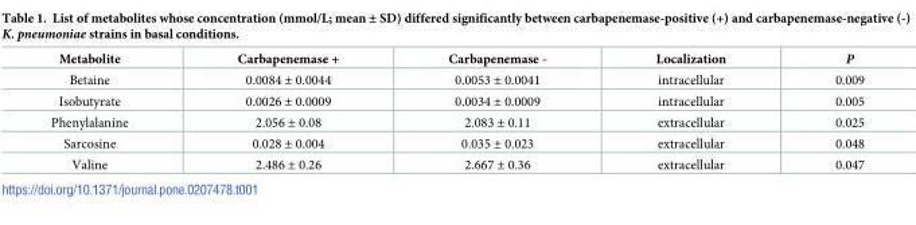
<table><thead><tr><td>Metabolite</td><td>Carbapenemase +</td><td>Carbapenemase -</td><td>Localization</td><td>P</td></tr></thead><tbody><tr><td>Betaine</td><td>0.0084 ± 0.0044</td><td>0.0053 ± 0.0041</td><td>intracellular</td><td>0.009</td></tr><tr><td>Isobutyrate</td><td>0.0026 ± 0.0009</td><td>0.0034 ± 0.0009</td><td>intracellular</td><td>0.005</td></tr><tr><td>Phenylalanine</td><td>2.056 ± 0.08</td><td>2.083 ± 0.11</td><td>extracellular</td><td>0.025</td></tr><tr><td>Sarcosine</td><td>0.028 ± 0.004</td><td>0.035 ± 0.023</td><td>extracellular</td><td>0.048</td></tr><tr><td>Valine</td><td>2.486 ± 0.26</td><td>2.667 ± 0.36</td><td>extracellular</td><td>0.047</td></tr></tbody></table>